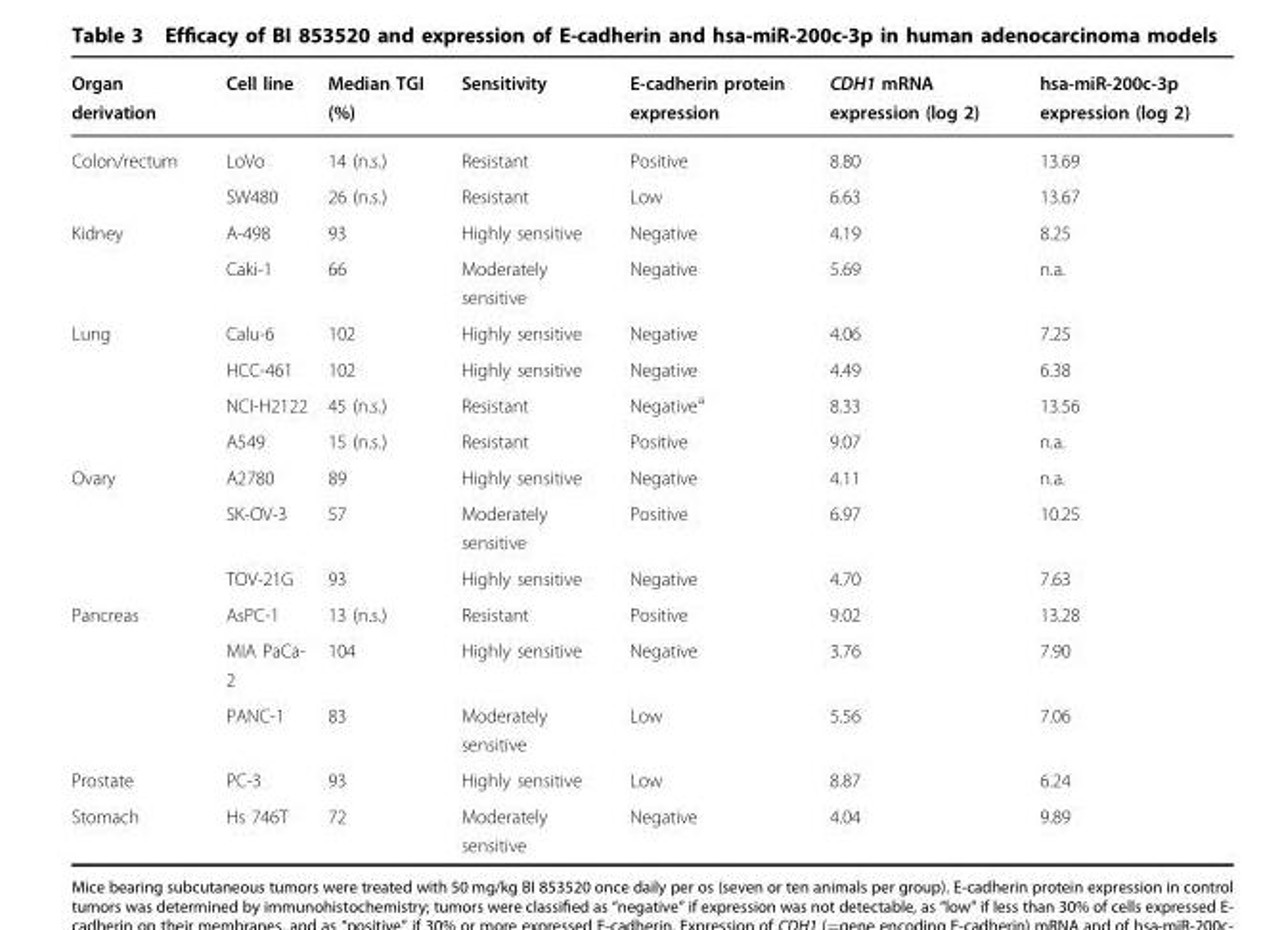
<table><thead><tr><td>Organ derivation</td><td>Cell line</td><td>Median TGI (%)</td><td>Sensitivity</td><td>E-cadherin protein expression</td><td>CDH1 mRNA expression (log 2)</td><td>hsa-miR-200c-3p expression (log 2)</td></tr></thead><tbody><tr><td rowspan="2">Colon/rectum</td><td>LoVo</td><td>14 (n.s.)</td><td>Resistant</td><td>Positive</td><td>8.80</td><td>13.69</td></tr><tr><td>SW480</td><td>26 (n.s.)</td><td>Resistant</td><td>Low</td><td>6.63</td><td>13.67</td></tr><tr><td rowspan="2">Kidney</td><td>A-498</td><td>93</td><td>Highly sensitive</td><td>Negative</td><td>4.19</td><td>8.25</td></tr><tr><td>Caki-1</td><td>66</td><td>Moderately sensitive</td><td>Negative</td><td>5.69</td><td>n.a.</td></tr><tr><td rowspan="4">Lung</td><td>Calu-6</td><td>102</td><td>Highly sensitive</td><td>Negative</td><td>4.06</td><td>7.25</td></tr><tr><td>HCC-461</td><td>102</td><td>Highly sensitive</td><td>Negative</td><td>4.49</td><td>6.38</td></tr><tr><td>NCI-H2122</td><td>45 (n.s.)</td><td>Resistant</td><td>Negative<sup>a</sup></td><td>8.33</td><td>13.56</td></tr><tr><td>A549</td><td>15 (n.s.)</td><td>Resistant</td><td>Positive</td><td>9.07</td><td>n.a.</td></tr><tr><td rowspan="3">Ovary</td><td>A2780</td><td>89</td><td>Highly sensitive</td><td>Negative</td><td>4.11</td><td>n.a.</td></tr><tr><td>SK-OV-3</td><td>57</td><td>Moderately sensitive</td><td>Positive</td><td>6.97</td><td>10.25</td></tr><tr><td>TOV-21G</td><td>93</td><td>Highly sensitive</td><td>Negative</td><td>4.70</td><td>7.63</td></tr><tr><td rowspan="3">Pancreas</td><td>AsPC-1</td><td>13 (n.s.)</td><td>Resistant</td><td>Positive</td><td>9.02</td><td>13.28</td></tr><tr><td>MIA PaCa- 2</td><td>104</td><td>Highly sensitive</td><td>Negative</td><td>3.76</td><td>7.90</td></tr><tr><td>PANC-1</td><td>83</td><td>Moderately sensitive</td><td>Low</td><td>5.56</td><td>7.06</td></tr><tr><td>Prostate</td><td>PC-3</td><td>93</td><td>Highly sensitive</td><td>Low</td><td>8.87</td><td>6.24</td></tr><tr><td>Stomach</td><td>Hs 746T</td><td>72</td><td>Moderately sensitive</td><td>Negative</td><td>4.04</td><td>9.89</td></tr></tbody></table>